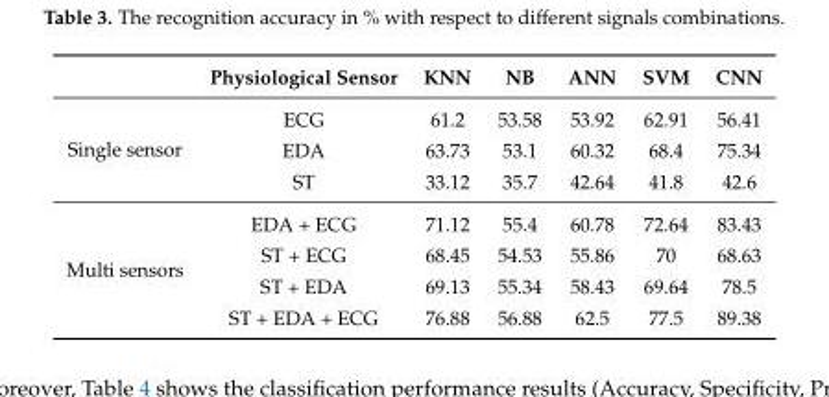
<table><thead><tr><td></td><td>Physiological Sensor</td><td>KNN</td><td>NB</td><td>ANN</td><td>SVM</td><td>CNN</td></tr></thead><tbody><tr><td rowspan="3">Single sensor</td><td>ECG</td><td>61.2</td><td>53.58</td><td>53.92</td><td>62.91</td><td>56.41</td></tr><tr><td>EDA</td><td>63.73</td><td>53.1</td><td>60.32</td><td>68.4</td><td>75.34</td></tr><tr><td>ST</td><td>33.12</td><td>35.7</td><td>42.64</td><td>41.8</td><td>42.6</td></tr><tr><td rowspan="4">Multi sensors</td><td>EDA + ECG</td><td>71.12</td><td>55.4</td><td>60.78</td><td>72.64</td><td>83.43</td></tr><tr><td>ST + ECG</td><td>68.45</td><td>54.53</td><td>55.86</td><td>70</td><td>68.63</td></tr><tr><td>ST + EDA</td><td>69.13</td><td>55.34</td><td>58.43</td><td>69.64</td><td>78.5</td></tr><tr><td>ST + EDA + ECG</td><td>76.88</td><td>56.88</td><td>62.5</td><td>77.5</td><td>89.38</td></tr></tbody></table>